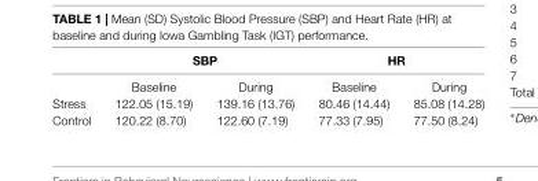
<table><thead><tr><td rowspan="2"></td><td colspan="2">SBP</td><td colspan="2">HR</td></tr><tr><td>Baseline</td><td>During</td><td>Baseline</td><td>During</td></tr></thead><tbody><tr><td>Stress</td><td>122.05 (15.19)</td><td>139.16 (13.76)</td><td>80.46 (14.44)</td><td>85.08 (14.28)</td></tr><tr><td>Control</td><td>120.22 (8.70)</td><td>122.60 (7.19)</td><td>77.33 (7.95)</td><td>77.50 (8.24)</td></tr></tbody></table>